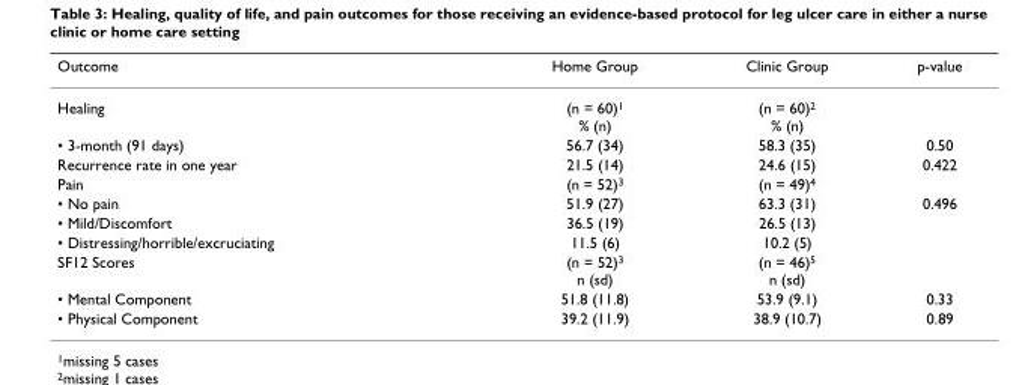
<table><thead><tr><td>Outcome</td><td>Home Group</td><td>Clinic Group</td><td>p-value</td></tr></thead><tbody><tr><td>Healing</td><td>(n = 60)<sup>1</sup> % (n)</td><td>(n = 60)<sup>2</sup> % (n)</td><td></td></tr><tr><td>• 3-month (91 days)</td><td>56.7 (34)</td><td>58.3 (35)</td><td>0.50</td></tr><tr><td>Recurrence rate in one year</td><td>21.5 (14)</td><td>24.6 (15)</td><td>0.422</td></tr><tr><td>Pain</td><td>(n = 52)<sup>3</sup></td><td>(n = 49)<sup>4</sup></td><td></td></tr><tr><td>• No pain</td><td>51.9 (27)</td><td>63.3 (31)</td><td>0.496</td></tr><tr><td>• Mild/Discomfort</td><td>36.5 (19)</td><td>26.5 (13)</td><td></td></tr><tr><td>• Distressing/horrible/excruciating</td><td>11.5 (6)</td><td>10.2 (5)</td><td></td></tr><tr><td>SF12 Scores</td><td>(n = 52)<sup>3</sup> n (sd)</td><td>(n = 46)<sup>5</sup> n (sd)</td><td></td></tr><tr><td>• Mental Component</td><td>51.8 (11.8)</td><td>53.9 (9.1)</td><td>0.33</td></tr><tr><td>• Physical Component</td><td>39.2 (11.9)</td><td>38.9 (10.7)</td><td>0.89</td></tr></tbody></table>